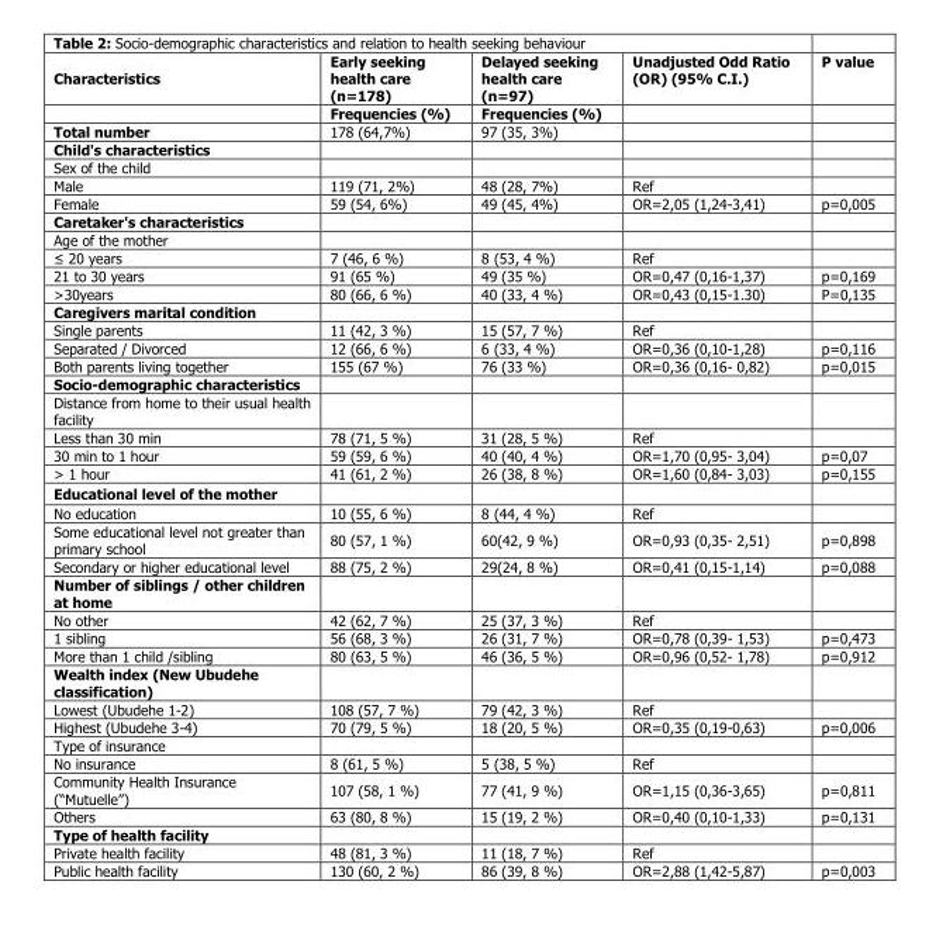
<table><thead><tr><td rowspan="2">Characteristics</td><td rowspan="2">Early seeking health care (n=178) Frequencies (%)</td><td rowspan="2">Delayed seeking health care (n=97) Frequencies (%)</td><td rowspan="2">Unadjusted Odd Ratio (OR) (95% C.I.)</td><td rowspan="2">P value</td></tr><tr></tr></thead><tbody><tr><td>Total number</td><td>178 (64,7%)</td><td>97 (35, 3%)</td><td></td><td></td></tr><tr><td colspan="5">Child&#x27;s characteristics</td></tr><tr><td colspan="5">Sex of the child</td></tr><tr><td>Male</td><td>119 (71, 2%)</td><td>48 (28, 7%)</td><td>Ref</td><td></td></tr><tr><td>Female</td><td>59 (54, 6%)</td><td>49 (45, 4%)</td><td>OR=2,05 (1,24-3,41)</td><td>p=0,005</td></tr><tr><td colspan="5">Caretaker&#x27;s characteristics</td></tr><tr><td colspan="5">Age of the mother</td></tr><tr><td>≤ 20 years</td><td>7 (46, 6 %)</td><td>8 (53, 4 %)</td><td>Ref</td><td></td></tr><tr><td>21 to 30 years</td><td>91 (65 %)</td><td>49 (35 %)</td><td>OR=0,47 (0,16-1,37)</td><td>p=0,169</td></tr><tr><td>&gt;30years</td><td>80 (66, 6 %)</td><td>40 (33, 4 %)</td><td>OR=0,43 (0,15-1.30)</td><td>P=0,135</td></tr><tr><td colspan="5">Caregivers marital condition</td></tr><tr><td>Single parents</td><td>11 (42, 3 %)</td><td>15 (57, 7 %)</td><td>Ref</td><td></td></tr><tr><td>Separated / Divorced</td><td>12 (66, 6 %)</td><td>6 (33, 4 %)</td><td>OR=0,36 (0,10-1,28)</td><td>p=0,116</td></tr><tr><td>Both parents living together</td><td>155 (67 %)</td><td>76 (33 %)</td><td>OR=0,36 (0,16- 0,82)</td><td>p=0,015</td></tr><tr><td colspan="5">Socio-demographic characteristics</td></tr><tr><td colspan="5">Distance from home to their usual health facility</td></tr><tr><td>Less than 30 min</td><td>78 (71, 5 %)</td><td>31 (28, 5 %)</td><td>Ref</td><td></td></tr><tr><td>30 min to 1 hour</td><td>59 (59, 6 %)</td><td>40 (40, 4 %)</td><td>OR=1,70 (0,95- 3,04)</td><td>p=0,07</td></tr><tr><td>&gt; 1 hour</td><td>41 (61, 2 %)</td><td>26 (38, 8 %)</td><td>OR=1,60 (0,84- 3,03)</td><td>p=0,155</td></tr><tr><td colspan="5">Educational level of the mother</td></tr><tr><td>No education</td><td>10 (55, 6 %)</td><td>8 (44, 4 %)</td><td>Ref</td><td></td></tr><tr><td>Some educational level not greater than primary school</td><td>80 (57, 1 %)</td><td>60(42, 9 %)</td><td>OR=0,93 (0,35- 2,51)</td><td>p=0,898</td></tr><tr><td>Secondary or higher educational level</td><td>88 (75, 2 %)</td><td>29(24, 8 %)</td><td>OR=0,41 (0,15-1,14)</td><td>p=0,088</td></tr><tr><td colspan="5">Number of siblings / other children at home</td></tr><tr><td>No other</td><td>42 (62, 7 %)</td><td>25 (37, 3 %)</td><td>Ref</td><td></td></tr><tr><td>1 sibling</td><td>56 (68, 3 %)</td><td>26 (31, 7 %)</td><td>OR=0,78 (0,39- 1,53)</td><td>p=0,473</td></tr><tr><td>More than 1 child /sibling</td><td>80 (63, 5 %)</td><td>46 (36, 5 %)</td><td>OR=0,96 (0,52- 1,78)</td><td>p=0,912</td></tr><tr><td colspan="5">Wealth index (New Ubudehe classification)</td></tr><tr><td>Lowest (Ubudehe 1-2)</td><td>108 (57, 7 %)</td><td>79 (42, 3 %)</td><td>Ref</td><td></td></tr><tr><td>Highest (Ubudehe 3-4)</td><td>70 (79, 5 %)</td><td>18 (20, 5 %)</td><td>OR=0,35 (0,19-0,63)</td><td>p=0,006</td></tr><tr><td colspan="5">Type of insurance</td></tr><tr><td>No insurance</td><td>8 (61, 5 %)</td><td>5 (38, 5 %)</td><td>Ref</td><td></td></tr><tr><td>Community Health Insurance (“Mutuelle”)</td><td>107 (58, 1 %)</td><td>77 (41, 9 %)</td><td>OR=1,15 (0,36-3,65)</td><td>p=0,811</td></tr><tr><td>Others</td><td>63 (80, 8 %)</td><td>15 (19, 2 %)</td><td>OR=0,40 (0,10-1,33)</td><td>p=0,131</td></tr><tr><td colspan="5">Type of health facility</td></tr><tr><td>Private health facility</td><td>48 (81, 3 %)</td><td>11 (18, 7 %)</td><td>Ref</td><td></td></tr><tr><td>Public health facility</td><td>130 (60, 2 %)</td><td>86 (39, 8 %)</td><td>OR=2,88 (1,42-5,87)</td><td>p=0,003</td></tr></tbody></table>